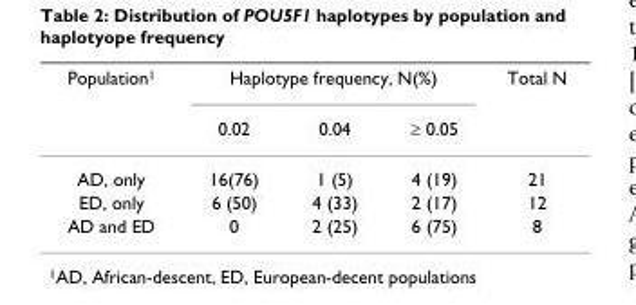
<table><thead><tr><td rowspan="2">Population<sup>1</sup></td><td colspan="3">Haplotype frequency, N(%)</td><td rowspan="2">Total N</td></tr><tr><td>0.02</td><td>0.04</td><td>≥ 0.05</td></tr></thead><tbody><tr><td>AD, only</td><td>16(76)</td><td>1 (5)</td><td>4 (19)</td><td>21</td></tr><tr><td>ED, only</td><td>6 (50)</td><td>4 (33)</td><td>2 (17)</td><td>12</td></tr><tr><td>AD and ED</td><td>0</td><td>2 (25)</td><td>6 (75)</td><td>8</td></tr></tbody></table>